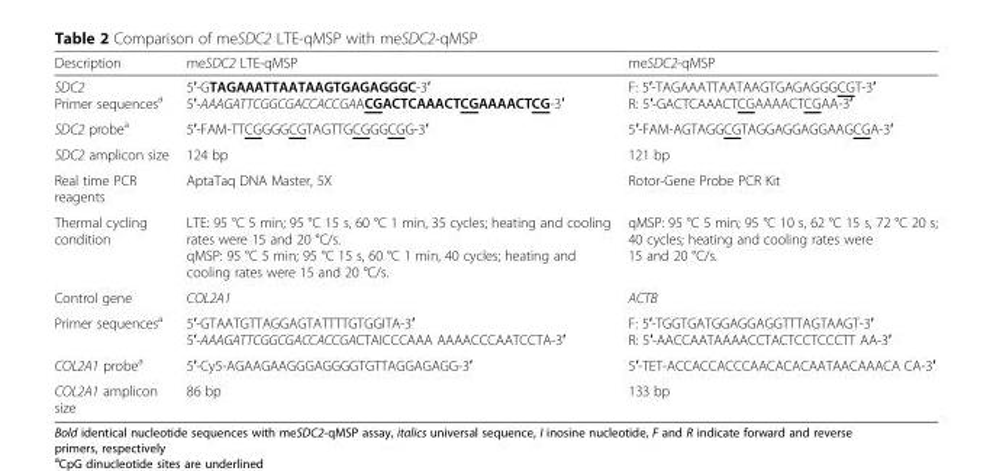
<table><thead><tr><td>Description</td><td>meSDC2 LTE-qMSP</td><td>meSDC2-qMSP</td></tr></thead><tbody><tr><td>SDC2 Primer sequences<sup>a</sup></td><td>5′-GTAGAAATTAATAAGTGAGAGGGC-3′ 5′-AAAGATTCGGCGACCACCGAACGACTCAAACTCGAAAACTCG-3′</td><td>F: 5′-TAGAAATTAATAAGTGAGAGGGCGT-3′ R: 5′-GACTCAAACTCGAAAACTCGAA-3′</td></tr><tr><td>SDC2 probe<sup>a</sup></td><td>5′-FAM-TTCGGGGCGTAGTTGCGGGCGG-3′</td><td>5′-FAM-AGTAGGCGTAGGAGGAGGAAGCGA-3′</td></tr><tr><td>SDC2 amplicon size</td><td>124 bp</td><td>121 bp</td></tr><tr><td>Real time PCR reagents</td><td>AptaTaq DNA Master, 5X</td><td>Rotor-Gene Probe PCR Kit</td></tr><tr><td>Thermal cycling condition</td><td>LTE: 95 °C 5 min; 95 °C 15 s, 60 °C 1 min, 35 cycles; heating and cooling rates were 15 and 20 °C/s. qMSP: 95 °C 5 min; 95 °C 15 s, 60 °C 1 min, 40 cycles; heating and cooling rates were 15 and 20 °C/s.</td><td>qMSP: 95 °C 5 min; 95 °C 10 s, 62 °C 15 s, 72 °C 20 s; 40 cycles; heating and cooling rates were 15 and 20 °C/s.</td></tr><tr><td>Control gene</td><td>COL2A1</td><td>ACTB</td></tr><tr><td>Primer sequences<sup>a</sup></td><td>5′-GTAATGTTAGGAGTATTTTGTGGITA-3′ 5′-AAAGATTCGGCGACCACCGACTAICCCAAA AAAACCCAATCCTA-3′</td><td>F: 5′-TGGTGATGGAGGAGGTTTAGTAAGT-3′ R: 5′-AACCAATAAAACCTACTCCTCCCTT AA-3′</td></tr><tr><td>COL2A1 probe<sup>a</sup></td><td>5′-Cy5-AGAAGAAGGGAGGGGTGTTAGGAGAGG-3′</td><td>5′-TET-ACCACCACCCAACACACAATAACAAACA CA-3′</td></tr><tr><td>COL2A1 amplicon size</td><td>86 bp</td><td>133 bp</td></tr></tbody></table>